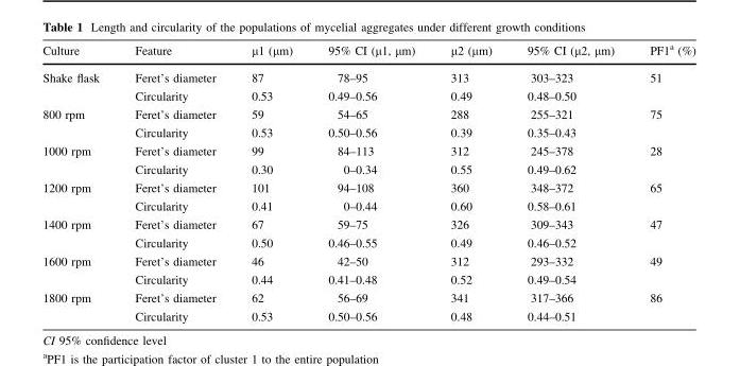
<table><thead><tr><td>Culture</td><td>Feature</td><td>µ1 (µm)</td><td>95% CI (µ1, µm)</td><td>µ2 (µm)</td><td>95% CI (µ2, µm)</td><td>PF1<sup>a</sup> (%)</td></tr></thead><tbody><tr><td rowspan="2">Shake flask</td><td>Feret’s diameter</td><td>87</td><td>78–95</td><td>313</td><td>303–323</td><td rowspan="2">51</td></tr><tr><td>Circularity</td><td>0.53</td><td>0.49–0.56</td><td>0.49</td><td>0.48–0.50</td></tr><tr><td rowspan="2">800 rpm</td><td>Feret’s diameter</td><td>59</td><td>54–65</td><td>288</td><td>255–321</td><td rowspan="2">75</td></tr><tr><td>Circularity</td><td>0.53</td><td>0.50–0.56</td><td>0.39</td><td>0.35–0.43</td></tr><tr><td rowspan="2">1000 rpm</td><td>Feret’s diameter</td><td>99</td><td>84–113</td><td>312</td><td>245–378</td><td rowspan="2">28</td></tr><tr><td>Circularity</td><td>0.30</td><td>0–0.34</td><td>0.55</td><td>0.49–0.62</td></tr><tr><td rowspan="2">1200 rpm</td><td>Feret’s diameter</td><td>101</td><td>94–108</td><td>360</td><td>348–372</td><td rowspan="2">65</td></tr><tr><td>Circularity</td><td>0.41</td><td>0–0.44</td><td>0.60</td><td>0.58–0.61</td></tr><tr><td rowspan="2">1400 rpm</td><td>Feret’s diameter</td><td>67</td><td>59–75</td><td>326</td><td>309–343</td><td rowspan="2">47</td></tr><tr><td>Circularity</td><td>0.50</td><td>0.46–0.55</td><td>0.49</td><td>0.46–0.52</td></tr><tr><td rowspan="2">1600 rpm</td><td>Feret’s diameter</td><td>46</td><td>42–50</td><td>312</td><td>293–332</td><td rowspan="2">49</td></tr><tr><td>Circularity</td><td>0.44</td><td>0.41–0.48</td><td>0.52</td><td>0.49–0.54</td></tr><tr><td rowspan="2">1800 rpm</td><td>Feret’s diameter</td><td>62</td><td>56–69</td><td>341</td><td>317–366</td><td rowspan="2">86</td></tr><tr><td>Circularity</td><td>0.53</td><td>0.50–0.56</td><td>0.48</td><td>0.44–0.51</td></tr></tbody></table>